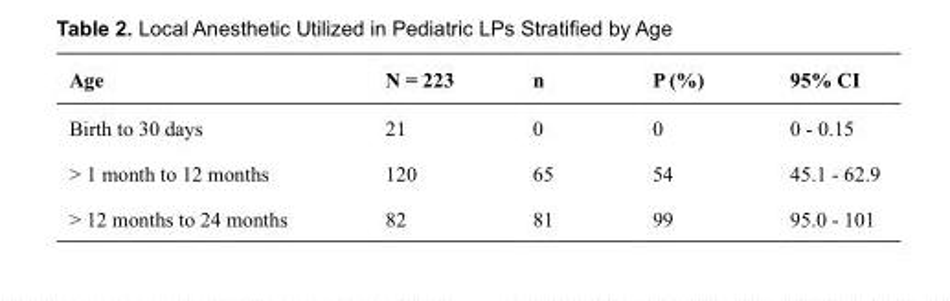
<table><thead><tr><td>Age</td><td>N = 223</td><td>n</td><td>P (%)</td><td>95% CI</td></tr></thead><tbody><tr><td>Birth to 30 days</td><td>21</td><td>0</td><td>0</td><td>0 - 0.15</td></tr><tr><td>&gt; 1 month to 12 months</td><td>120</td><td>65</td><td>54</td><td>45.1 - 62.9</td></tr><tr><td>&gt; 12 months to 24 months</td><td>82</td><td>81</td><td>99</td><td>95.0 - 101</td></tr></tbody></table>